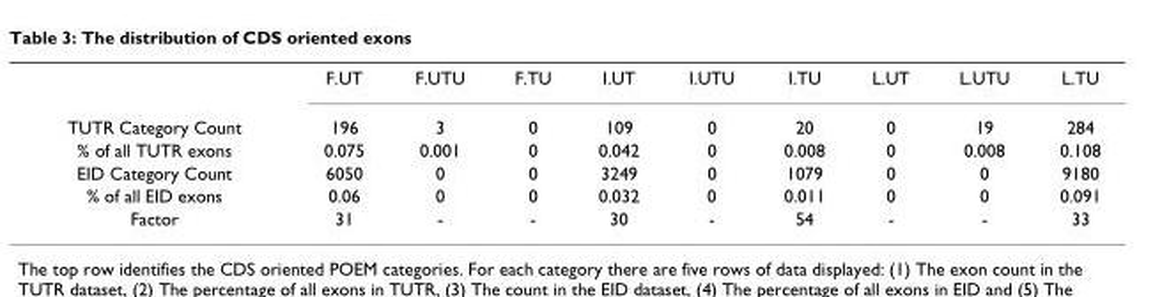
<table><thead><tr><td></td><td>F.UT</td><td>F.UTU</td><td>F.TU</td><td>I.UT</td><td>I.UTU</td><td>I.TU</td><td>L.UT</td><td>L.UTU</td><td>L.TU</td></tr></thead><tbody><tr><td>TUTR Category Count</td><td>196</td><td>3</td><td>0</td><td>109</td><td>0</td><td>20</td><td>0</td><td>19</td><td>284</td></tr><tr><td>% of all TUTR exons</td><td>0.075</td><td>0.001</td><td>0</td><td>0.042</td><td>0</td><td>0.008</td><td>0</td><td>0.008</td><td>0.108</td></tr><tr><td>EID Category Count</td><td>6050</td><td>0</td><td>0</td><td>3249</td><td>0</td><td>1079</td><td>0</td><td>0</td><td>9180</td></tr><tr><td>% of all EID exons</td><td>0.06</td><td>0</td><td>0</td><td>0.032</td><td>0</td><td>0.011</td><td>0</td><td>0</td><td>0.091</td></tr><tr><td>Factor</td><td>31</td><td>-</td><td>-</td><td>30</td><td>-</td><td>54</td><td>-</td><td>-</td><td>33</td></tr></tbody></table>